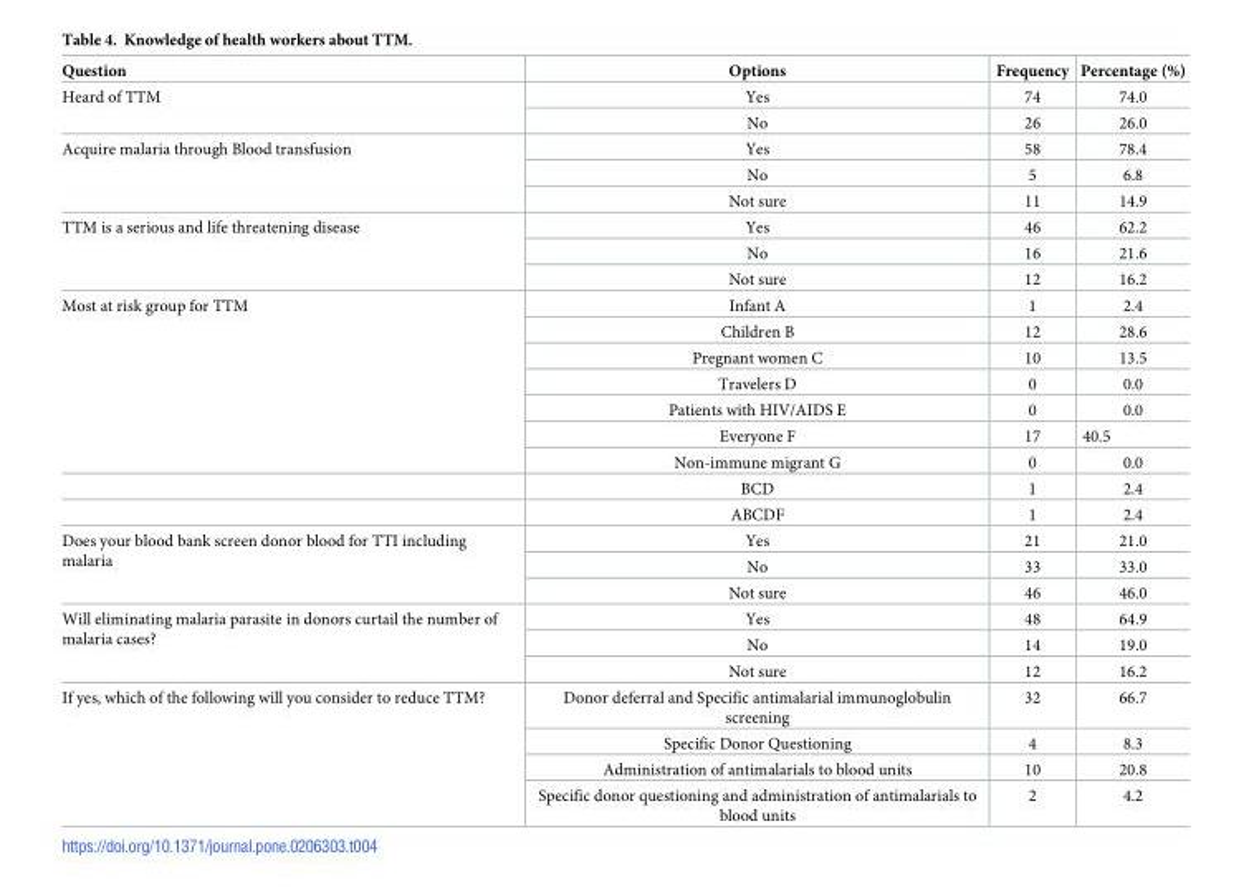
<table><thead><tr><td>Question</td><td>Options</td><td>Frequency</td><td>Percentage (%)</td></tr></thead><tbody><tr><td rowspan="2">Heard of TTM</td><td>Yes</td><td>74</td><td>74.0</td></tr><tr><td>No</td><td>26</td><td>26.0</td></tr><tr><td rowspan="3">Acquire malaria through Blood transfusion</td><td>Yes</td><td>58</td><td>78.4</td></tr><tr><td>No</td><td>5</td><td>6.8</td></tr><tr><td>Not sure</td><td>11</td><td>14.9</td></tr><tr><td rowspan="3">TTM is a serious and life threatening disease</td><td>Yes</td><td>46</td><td>62.2</td></tr><tr><td>No</td><td>16</td><td>21.6</td></tr><tr><td>Not sure</td><td>12</td><td>16.2</td></tr><tr><td rowspan="9">Most at risk group for TTM</td><td>Infant A</td><td>1</td><td>2.4</td></tr><tr><td>Children B</td><td>12</td><td>28.6</td></tr><tr><td>Pregnant women C</td><td>10</td><td>13.5</td></tr><tr><td>Travelers D</td><td>0</td><td>0.0</td></tr><tr><td>Patients with HIV/AIDS E</td><td>0</td><td>0.0</td></tr><tr><td>Everyone F</td><td>17</td><td>40.5</td></tr><tr><td>Non-immune migrant G</td><td>0</td><td>0.0</td></tr><tr><td>BCD</td><td>1</td><td>2.4</td></tr><tr><td>ABCDF</td><td>1</td><td>2.4</td></tr><tr><td rowspan="3">Does your blood bank screen donor blood for TTI including malaria</td><td>Yes</td><td>21</td><td>21.0</td></tr><tr><td>No</td><td>33</td><td>33.0</td></tr><tr><td>Not sure</td><td>46</td><td>46.0</td></tr><tr><td rowspan="3">Will eliminating malaria parasite in donors curtail the number of malaria cases?</td><td>Yes</td><td>48</td><td>64.9</td></tr><tr><td>No</td><td>14</td><td>19.0</td></tr><tr><td>Not sure</td><td>12</td><td>16.2</td></tr><tr><td rowspan="4">If yes, which of the following will you consider to reduce TTM?</td><td>Donor deferral and Specific antimalarial immunoglobulin screening</td><td>32</td><td>66.7</td></tr><tr><td>Specific Donor Questioning</td><td>4</td><td>8.3</td></tr><tr><td>Administration of antimalarials to blood units</td><td>10</td><td>20.8</td></tr><tr><td>Specific donor questioning and administration of antimalarials to blood units</td><td>2</td><td>4.2</td></tr></tbody></table>